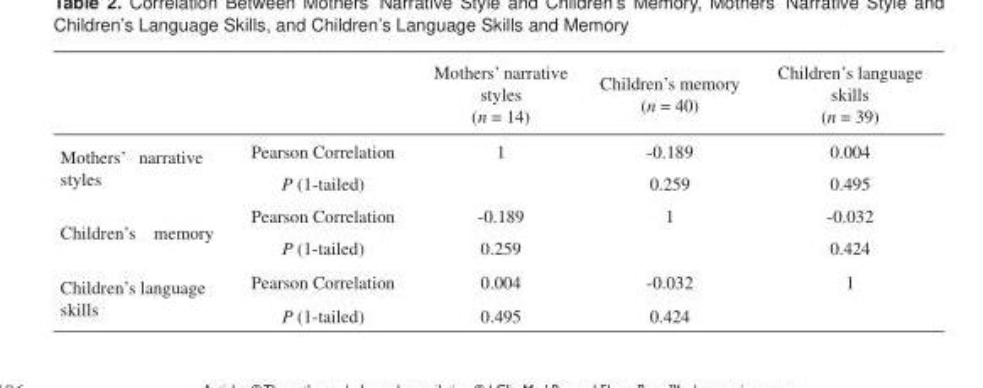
<table><thead><tr><td></td><td></td><td>Mothers’ narrative styles (n = 14)</td><td>Children’s memory (n = 40)</td><td>Children’s language skills (n = 39)</td></tr></thead><tbody><tr><td rowspan="2">Mothers’ narrative styles</td><td>Pearson Correlation</td><td>1</td><td>-0.189</td><td>0.004</td></tr><tr><td>P (1-tailed)</td><td></td><td>0.259</td><td>0.495</td></tr><tr><td rowspan="2">Children’s memory</td><td>Pearson Correlation</td><td>-0.189</td><td>1</td><td>-0.032</td></tr><tr><td>P (1-tailed)</td><td>0.259</td><td></td><td>0.424</td></tr><tr><td rowspan="2">Children’s language skills</td><td>Pearson Correlation</td><td>0.004</td><td>-0.032</td><td>1</td></tr><tr><td>P (1-tailed)</td><td>0.495</td><td>0.424</td><td></td></tr></tbody></table>